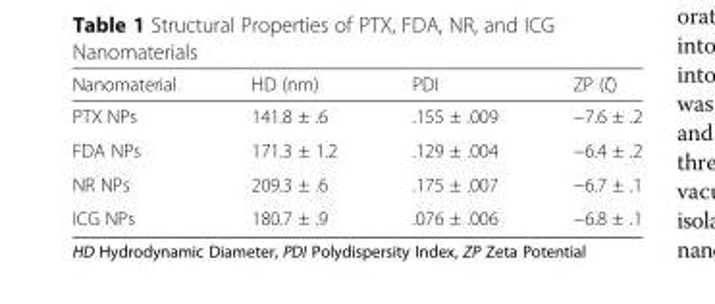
<table><thead><tr><td>Nanomaterial</td><td>HD (nm)</td><td>PDI</td><td>ZP (ζ)</td></tr></thead><tbody><tr><td>PTX NPs</td><td>141.8 ± .6</td><td>.155 ± .009</td><td>−7.6 ± .2</td></tr><tr><td>FDA NPs</td><td>171.3 ± 1.2</td><td>.129 ± .004</td><td>−6.4 ± .2</td></tr><tr><td>NR NPs</td><td>209.3 ± .6</td><td>.175 ± .007</td><td>−6.7 ± .1</td></tr><tr><td>ICG NPs</td><td>180.7 ± .9</td><td>.076 ± .006</td><td>−6.8 ± .1</td></tr></tbody></table>